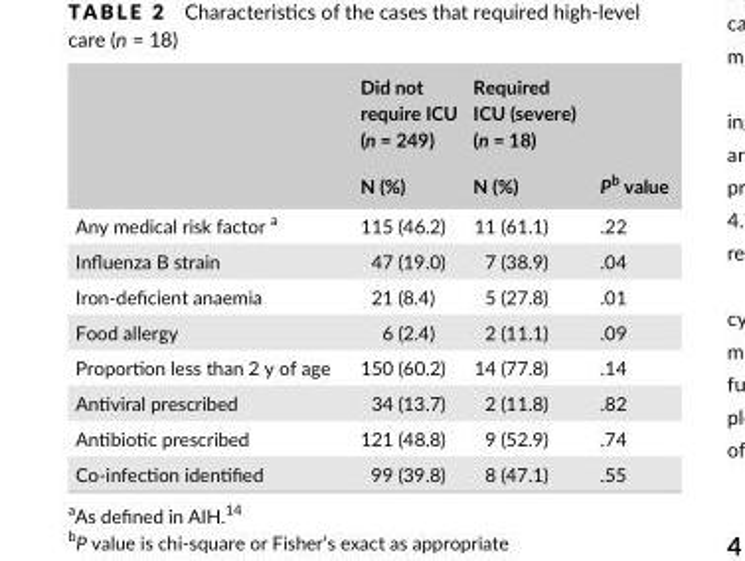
<table><thead><tr><td rowspan="2"></td><td rowspan="2">Did not require ICU (n = 249) N (%)</td><td rowspan="2">Required ICU (severe) (n = 18) N (%)</td><td rowspan="2">Pb value</td></tr><tr></tr></thead><tbody><tr><td>Any medical risk factor a</td><td>115 (46.2)</td><td>11 (61.1)</td><td>.22</td></tr><tr><td>Influenza B strain</td><td>47 (19.0)</td><td>7 (38.9)</td><td>.04</td></tr><tr><td>Iron- deficient anaemia</td><td>21 (8.4)</td><td>5 (27.8)</td><td>.01</td></tr><tr><td>Food allergy</td><td>6 (2.4)</td><td>2 (11.1)</td><td>.09</td></tr><tr><td>Proportion less than 2 y of age</td><td>150 (60.2)</td><td>14 (77.8)</td><td>.14</td></tr><tr><td>Antiviral prescribed</td><td>34 (13.7)</td><td>2 (11.8)</td><td>.82</td></tr><tr><td>Antibiotic prescribed</td><td>121 (48.8)</td><td>9 (52.9)</td><td>.74</td></tr><tr><td>Co- infection identified</td><td>99 (39.8)</td><td>8 (47.1)</td><td>.55</td></tr></tbody></table>